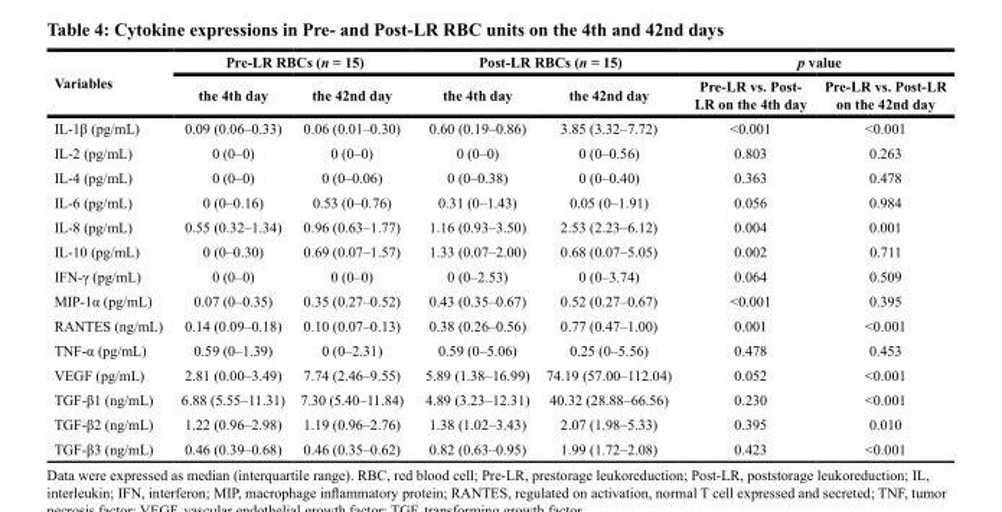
<table><thead><tr><td rowspan="2">Variables</td><td colspan="2">Pre-LR RBCs (n = 15)</td><td colspan="2">Post-LR RBCs (n = 15)</td><td colspan="2">p value</td></tr><tr><td>the 4th day</td><td>the 42nd day</td><td>the 4th day</td><td>the 42nd day</td><td>Pre-LR vs. Post- LR on the 4th day</td><td>Pre-LR vs. Post-LR on the 42nd day</td></tr></thead><tbody><tr><td>IL-1β (pg/mL)</td><td>0.09 (0.06–0.33)</td><td>0.06 (0.01–0.30)</td><td>0.60 (0.19–0.86)</td><td>3.85 (3.32–7.72)</td><td>&lt;0.001</td><td>&lt;0.001</td></tr><tr><td>IL-2 (pg/mL)</td><td>0 (0–0)</td><td>0 (0–0)</td><td>0 (0–0)</td><td>0 (0–0.56)</td><td>0.803</td><td>0.263</td></tr><tr><td>IL-4 (pg/mL)</td><td>0 (0–0)</td><td>0 (0–0.06)</td><td>0 (0–0.38)</td><td>0 (0–0.40)</td><td>0.363</td><td>0.478</td></tr><tr><td>IL-6 (pg/mL)</td><td>0 (0–0.16)</td><td>0.53 (0–0.76)</td><td>0.31 (0–1.43)</td><td>0.05 (0–1.91)</td><td>0.056</td><td>0.984</td></tr><tr><td>IL-8 (pg/mL)</td><td>0.55 (0.32–1.34)</td><td>0.96 (0.63–1.77)</td><td>1.16 (0.93–3.50)</td><td>2.53 (2.23–6.12)</td><td>0.004</td><td>0.001</td></tr><tr><td>IL-10 (pg/mL)</td><td>0 (0–0.30)</td><td>0.69 (0.07–1.57)</td><td>1.33 (0.07–2.00)</td><td>0.68 (0.07–5.05)</td><td>0.002</td><td>0.711</td></tr><tr><td>IFN-γ (pg/mL)</td><td>0 (0–0)</td><td>0 (0–0)</td><td>0 (0–2.53)</td><td>0 (0–3.74)</td><td>0.064</td><td>0.509</td></tr><tr><td>MIP-1α (pg/mL)</td><td>0.07 (0–0.35)</td><td>0.35 (0.27–0.52)</td><td>0.43 (0.35–0.67)</td><td>0.52 (0.27–0.67)</td><td>&lt;0.001</td><td>0.395</td></tr><tr><td>RANTES (ng/mL)</td><td>0.14 (0.09–0.18)</td><td>0.10 (0.07–0.13)</td><td>0.38 (0.26–0.56)</td><td>0.77 (0.47–1.00)</td><td>0.001</td><td>&lt;0.001</td></tr><tr><td>TNF-α (pg/mL)</td><td>0.59 (0–1.39)</td><td>0 (0–2.31)</td><td>0.59 (0–5.06)</td><td>0.25 (0–5.56)</td><td>0.478</td><td>0.453</td></tr><tr><td>VEGF (pg/mL)</td><td>2.81 (0.00–3.49)</td><td>7.74 (2.46–9.55)</td><td>5.89 (1.38–16.99)</td><td>74.19 (57.00–112.04)</td><td>0.052</td><td>&lt;0.001</td></tr><tr><td>TGF-β1 (ng/mL)</td><td>6.88 (5.55–11.31)</td><td>7.30 (5.40–11.84)</td><td>4.89 (3.23–12.31)</td><td>40.32 (28.88–66.56)</td><td>0.230</td><td>&lt;0.001</td></tr><tr><td>TGF-β2 (ng/mL)</td><td>1.22 (0.96–2.98)</td><td>1.19 (0.96–2.76)</td><td>1.38 (1.02–3.43)</td><td>2.07 (1.98–5.33)</td><td>0.395</td><td>0.010</td></tr><tr><td>TGF-β3 (ng/mL)</td><td>0.46 (0.39–0.68)</td><td>0.46 (0.35–0.62)</td><td>0.82 (0.63–0.95)</td><td>1.99 (1.72–2.08)</td><td>0.423</td><td>&lt;0.001</td></tr></tbody></table>